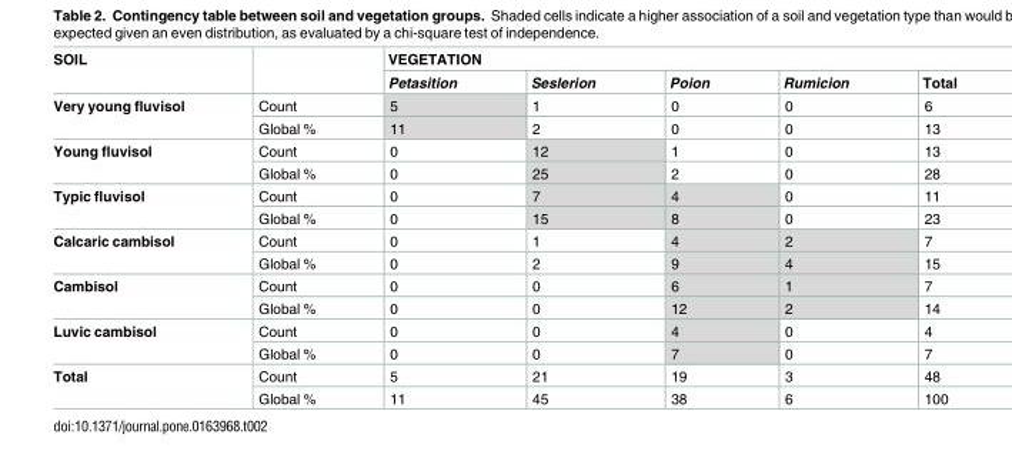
<table><thead><tr><td rowspan="2">SOIL</td><td rowspan="2"></td><td colspan="5">VEGETATION</td></tr><tr><td>Petasition</td><td>Seslerion</td><td>Poion</td><td>Rumicion</td><td>Total</td></tr></thead><tbody><tr><td rowspan="2">Very young fluvisol</td><td>Count</td><td>5</td><td>1</td><td>0</td><td>0</td><td>6</td></tr><tr><td>Global %</td><td>11</td><td>2</td><td>0</td><td>0</td><td>13</td></tr><tr><td rowspan="2">Young fluvisol</td><td>Count</td><td>0</td><td>12</td><td>1</td><td>0</td><td>13</td></tr><tr><td>Global %</td><td>0</td><td>25</td><td>2</td><td>0</td><td>28</td></tr><tr><td rowspan="2">Typic fluvisol</td><td>Count</td><td>0</td><td>7</td><td>4</td><td>0</td><td>11</td></tr><tr><td>Global %</td><td>0</td><td>15</td><td>8</td><td>0</td><td>23</td></tr><tr><td rowspan="2">Calcaric cambisol</td><td>Count</td><td>0</td><td>1</td><td>4</td><td>2</td><td>7</td></tr><tr><td>Global %</td><td>0</td><td>2</td><td>9</td><td>4</td><td>15</td></tr><tr><td rowspan="2">Cambisol</td><td>Count</td><td>0</td><td>0</td><td>6</td><td>1</td><td>7</td></tr><tr><td>Global %</td><td>0</td><td>0</td><td>12</td><td>2</td><td>14</td></tr><tr><td rowspan="2">Luvic cambisol</td><td>Count</td><td>0</td><td>0</td><td>4</td><td>0</td><td>4</td></tr><tr><td>Global %</td><td>0</td><td>0</td><td>7</td><td>0</td><td>7</td></tr><tr><td rowspan="2">Total</td><td>Count</td><td>5</td><td>21</td><td>19</td><td>3</td><td>48</td></tr><tr><td>Global %</td><td>11</td><td>45</td><td>38</td><td>6</td><td>100</td></tr></tbody></table>